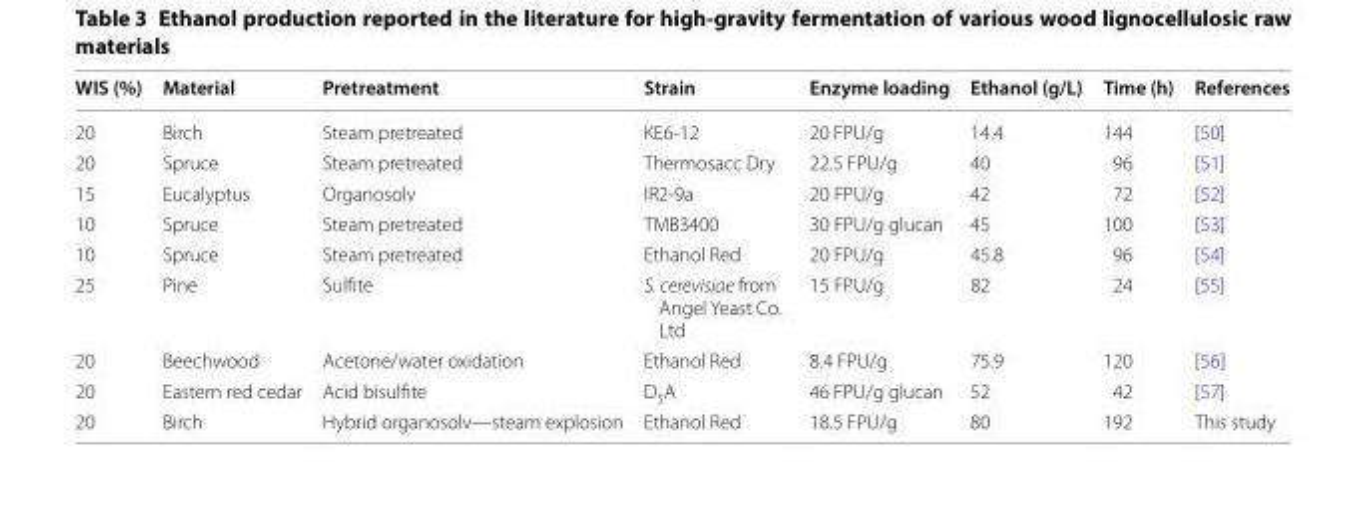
<table><thead><tr><td>WIS (%)</td><td>Material</td><td>Pretreatment</td><td>Strain</td><td>Enzyme loading</td><td>Ethanol (g/L)</td><td>Time (h)</td><td>References</td></tr></thead><tbody><tr><td>20</td><td>Birch</td><td>Steam pretreated</td><td>KE6-12</td><td>20 FPU/g</td><td>14.4</td><td>144</td><td>[50]</td></tr><tr><td>20</td><td>Spruce</td><td>Steam pretreated</td><td>Thermosacc Dry</td><td>22.5 FPU/g</td><td>40</td><td>96</td><td>[51]</td></tr><tr><td>15</td><td>Eucalyptus</td><td>Organosolv</td><td>IR2-9a</td><td>20 FPU/g</td><td>42</td><td>72</td><td>[52]</td></tr><tr><td>10</td><td>Spruce</td><td>Steam pretreated</td><td>TMB3400</td><td>30 FPU/g glucan</td><td>45</td><td>100</td><td>[53]</td></tr><tr><td>10</td><td>Spruce</td><td>Steam pretreated</td><td>Ethanol Red</td><td>20 FPU/g</td><td>45.8</td><td>96</td><td>[54]</td></tr><tr><td>25</td><td>Pine</td><td>Sulfite</td><td>S. cerevisiae from Angel Yeast Co. Ltd</td><td>15 FPU/g</td><td>82</td><td>24</td><td>[55]</td></tr><tr><td>20</td><td>Beechwood</td><td>Acetone/water oxidation</td><td>Ethanol Red</td><td>8.4 FPU/g</td><td>75.9</td><td>120</td><td>[56]</td></tr><tr><td>20</td><td>Eastern red cedar</td><td>Acid bisulfite</td><td>D<sub>5</sub>A</td><td>46 FPU/g glucan</td><td>52</td><td>42</td><td>[57]</td></tr><tr><td>20</td><td>Birch</td><td>Hybrid organosolv—steam explosion</td><td>Ethanol Red</td><td>18.5 FPU/g</td><td>80</td><td>192</td><td>This study</td></tr></tbody></table>